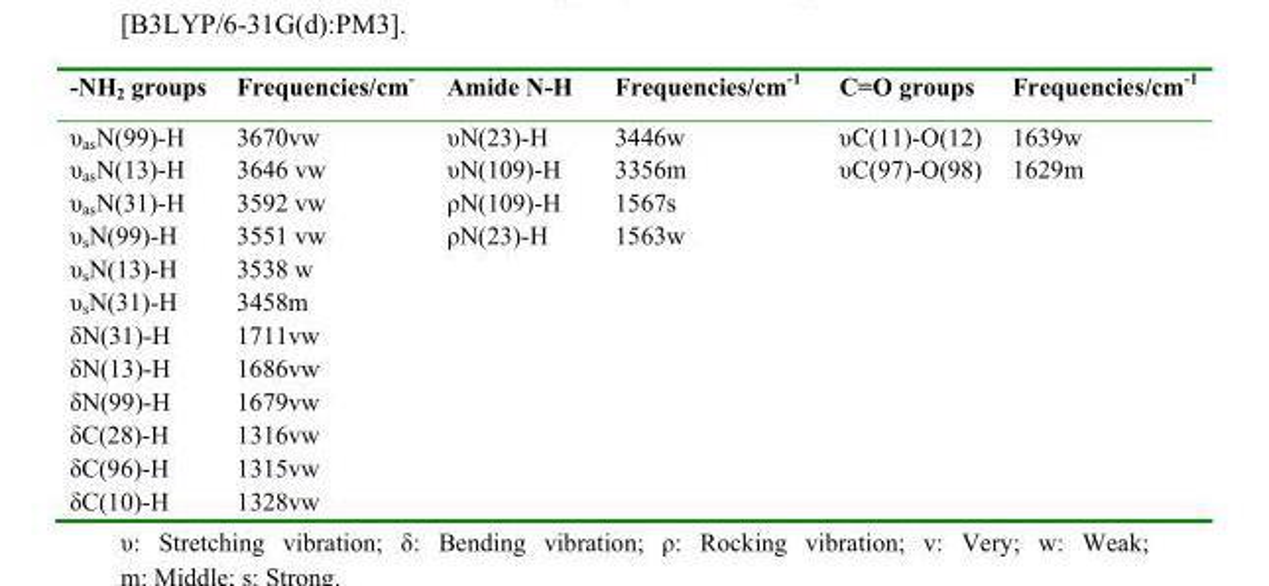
<table><thead><tr><td>-NH<sub>2</sub> groups</td><td>Frequencies/cm<sup>-</sup></td><td>Amide N-H</td><td>Frequencies/cm<sup>-1</sup></td><td>C=O groups</td><td>Frequencies/cm<sup>-1</sup></td></tr></thead><tbody><tr><td>υ<sub>as</sub>N(99)-H</td><td>3670vw</td><td>υN(23)-H</td><td>3446w</td><td>υC(11)-O(12)</td><td>1639w</td></tr><tr><td>υ<sub>as</sub>N(13)-H</td><td>3646 vw</td><td>υN(109)-H</td><td>3356m</td><td>υC(97)-O(98)</td><td>1629m</td></tr><tr><td>υ<sub>as</sub>N(31)-H</td><td>3592 vw</td><td>ρN(109)-H</td><td>1567s</td><td></td><td></td></tr><tr><td>υ<sub>s</sub>N(99)-H</td><td>3551 vw</td><td>ρN(23)-H</td><td>1563w</td><td></td><td></td></tr><tr><td>υ<sub>s</sub>N(13)-H</td><td>3538 w</td><td></td><td></td><td></td><td></td></tr><tr><td>υ<sub>s</sub>N(31)-H</td><td>3458m</td><td></td><td></td><td></td><td></td></tr><tr><td>δN(31)-H</td><td>1711vw</td><td></td><td></td><td></td><td></td></tr><tr><td>δN(13)-H</td><td>1686vw</td><td></td><td></td><td></td><td></td></tr><tr><td>δN(99)-H</td><td>1679vw</td><td></td><td></td><td></td><td></td></tr><tr><td>δC(28)-H</td><td>1316vw</td><td></td><td></td><td></td><td></td></tr><tr><td>δC(96)-H</td><td>1315vw</td><td></td><td></td><td></td><td></td></tr><tr><td>δC(10)-H</td><td>1328vw</td><td></td><td></td><td></td><td></td></tr></tbody></table>